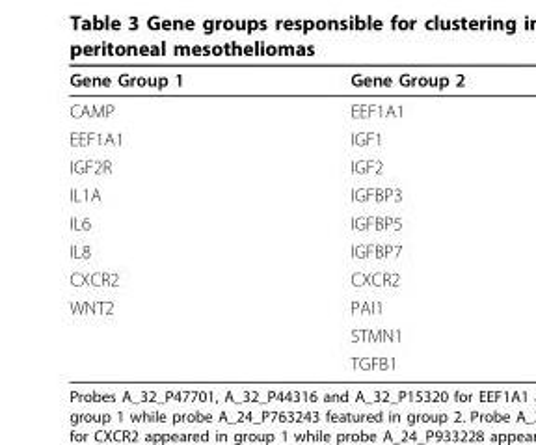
<table><thead><tr><td>Gene Group 1</td><td>Gene Group 2</td></tr></thead><tbody><tr><td>CAMP</td><td>EEF1A1</td></tr><tr><td>EEF1A1</td><td>IGF1</td></tr><tr><td>IGF2R</td><td>IGF2</td></tr><tr><td>IL1A</td><td>IGFBP3</td></tr><tr><td>IL6</td><td>IGFBP5</td></tr><tr><td>IL8</td><td>IGFBP7</td></tr><tr><td>CXCR2</td><td>CXCR2</td></tr><tr><td rowspan="3">WNT2</td><td>PAI1</td></tr><tr><td>STMN1</td></tr><tr><td>TGFB1</td></tr></tbody></table>